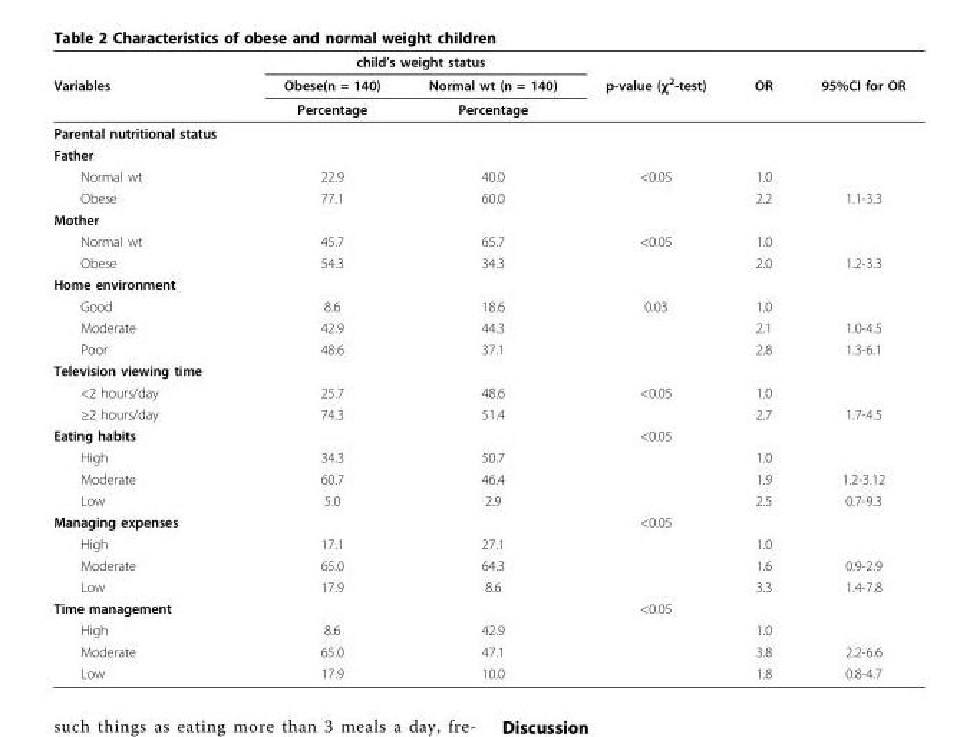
<table><thead><tr><td rowspan="3">Variables</td><td colspan="2">child’s weight status</td><td rowspan="3">p-value (χ<sup>2</sup>-test)</td><td rowspan="3">OR</td><td rowspan="3">95%CI for OR</td></tr><tr><td rowspan="2">Obese(n = 140) Percentage</td><td rowspan="2">Normal wt (n = 140) Percentage</td></tr><tr></tr></thead><tbody><tr><td colspan="6">Parental nutritional status</td></tr><tr><td colspan="6">Father</td></tr><tr><td>Normal wt</td><td>22.9</td><td>40.0</td><td>&lt;0.05</td><td>1.0</td><td></td></tr><tr><td>Obese</td><td>77.1</td><td>60.0</td><td></td><td>2.2</td><td>1.1-3.3</td></tr><tr><td colspan="6">Mother</td></tr><tr><td>Normal wt</td><td>45.7</td><td>65.7</td><td>&lt;0.05</td><td>1.0</td><td></td></tr><tr><td>Obese</td><td>54.3</td><td>34.3</td><td></td><td>2.0</td><td>1.2-3.3</td></tr><tr><td colspan="6">Home environment</td></tr><tr><td>Good</td><td>8.6</td><td>18.6</td><td>0.03</td><td>1.0</td><td></td></tr><tr><td>Moderate</td><td>42.9</td><td>44.3</td><td></td><td>2.1</td><td>1.0-4.5</td></tr><tr><td>Poor</td><td>48.6</td><td>37.1</td><td></td><td>2.8</td><td>1.3-6.1</td></tr><tr><td colspan="6">Television viewing time</td></tr><tr><td>&lt;2 hours/day</td><td>25.7</td><td>48.6</td><td>&lt;0.05</td><td>1.0</td><td></td></tr><tr><td>≥2 hours/day</td><td>74.3</td><td>51.4</td><td></td><td>2.7</td><td>1.7-4.5</td></tr><tr><td>Eating habits</td><td></td><td></td><td>&lt;0.05</td><td></td><td></td></tr><tr><td>High</td><td>34.3</td><td>50.7</td><td></td><td>1.0</td><td></td></tr><tr><td>Moderate</td><td>60.7</td><td>46.4</td><td></td><td>1.9</td><td>1.2-3.12</td></tr><tr><td>Low</td><td>5.0</td><td>2.9</td><td></td><td>2.5</td><td>0.7-9.3</td></tr><tr><td>Managing expenses</td><td></td><td></td><td>&lt;0.05</td><td></td><td></td></tr><tr><td>High</td><td>17.1</td><td>27.1</td><td></td><td>1.0</td><td></td></tr><tr><td>Moderate</td><td>65.0</td><td>64.3</td><td></td><td>1.6</td><td>0.9-2.9</td></tr><tr><td>Low</td><td>17.9</td><td>8.6</td><td></td><td>3.3</td><td>1.4-7.8</td></tr><tr><td>Time management</td><td></td><td></td><td>&lt;0.05</td><td></td><td></td></tr><tr><td>High</td><td>8.6</td><td>42.9</td><td></td><td>1.0</td><td></td></tr><tr><td>Moderate</td><td>65.0</td><td>47.1</td><td></td><td>3.8</td><td>2.2-6.6</td></tr><tr><td>Low</td><td>17.9</td><td>10.0</td><td></td><td>1.8</td><td>0.8-4.7</td></tr></tbody></table>